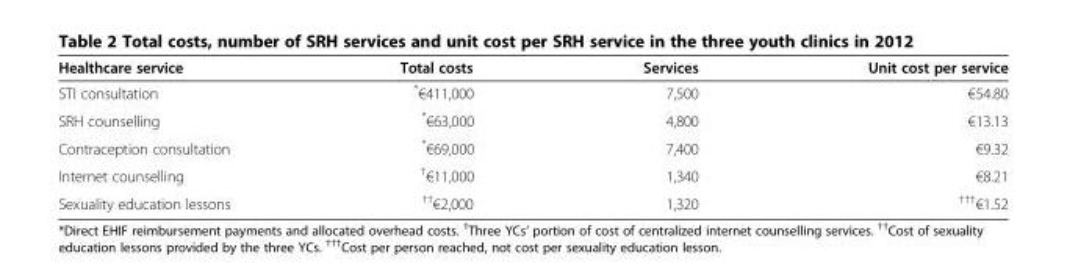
<table><thead><tr><td>Healthcare service</td><td>Total costs</td><td>Services</td><td>Unit cost per service</td></tr></thead><tbody><tr><td>STI consultation</td><td>*€411,000</td><td>7,500</td><td>€54.80</td></tr><tr><td>SRH counselling</td><td>*€63,000</td><td>4,800</td><td>€13.13</td></tr><tr><td>Contraception consultation</td><td>*€69,000</td><td>7,400</td><td>€9.32</td></tr><tr><td>Internet counselling</td><td><sup>†</sup>€11,000</td><td>1,340</td><td>€8.21</td></tr><tr><td>Sexuality education lessons</td><td><sup>††</sup>€2,000</td><td>1,320</td><td><sup>†††</sup>€1.52</td></tr></tbody></table>